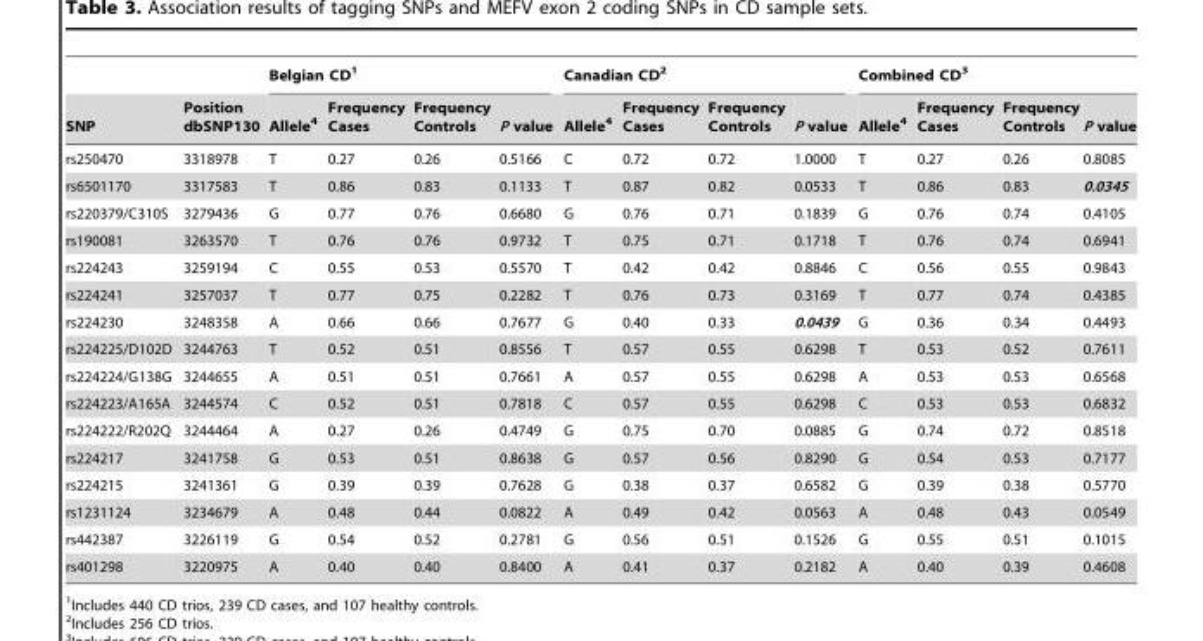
<table><thead><tr><td rowspan="2">SNP</td><td rowspan="2">Position dbSNP130</td><td colspan="4">Belgian CD<sup>1</sup></td><td colspan="4">Canadian CD<sup>2</sup></td><td colspan="4">Combined CD<sup>3</sup></td></tr><tr><td>Allele<sup>4</sup></td><td>Frequency Cases</td><td>Frequency Controls</td><td>P value</td><td>Allele<sup>4</sup></td><td>Frequency Cases</td><td>Frequency Controls</td><td>P value</td><td>Allele<sup>4</sup></td><td>Frequency Cases</td><td>Frequency Controls</td><td>P value</td></tr></thead><tbody><tr><td>rs250470</td><td>3318978</td><td>T</td><td>0.27</td><td>0.26</td><td>0.5166</td><td>C</td><td>0.72</td><td>0.72</td><td>1.0000</td><td>T</td><td>0.27</td><td>0.26</td><td>0.8085</td></tr><tr><td>rs6501170</td><td>3317583</td><td>T</td><td>0.86</td><td>0.83</td><td>0.1133</td><td>T</td><td>0.87</td><td>0.82</td><td>0.0533</td><td>T</td><td>0.86</td><td>0.83</td><td>0.0345</td></tr><tr><td>rs220379/C310S</td><td>3279436</td><td>G</td><td>0.77</td><td>0.76</td><td>0.6680</td><td>G</td><td>0.76</td><td>0.71</td><td>0.1839</td><td>G</td><td>0.76</td><td>0.74</td><td>0.4105</td></tr><tr><td>rs190081</td><td>3263570</td><td>T</td><td>0.76</td><td>0.76</td><td>0.9732</td><td>T</td><td>0.75</td><td>0.71</td><td>0.1718</td><td>T</td><td>0.76</td><td>0.74</td><td>0.6941</td></tr><tr><td>rs224243</td><td>3259194</td><td>C</td><td>0.55</td><td>0.53</td><td>0.5570</td><td>T</td><td>0.42</td><td>0.42</td><td>0.8846</td><td>C</td><td>0.56</td><td>0.55</td><td>0.9843</td></tr><tr><td>rs224241</td><td>3257037</td><td>T</td><td>0.77</td><td>0.75</td><td>0.2282</td><td>T</td><td>0.76</td><td>0.73</td><td>0.3169</td><td>T</td><td>0.77</td><td>0.74</td><td>0.4385</td></tr><tr><td>rs224230</td><td>3248358</td><td>A</td><td>0.66</td><td>0.66</td><td>0.7677</td><td>G</td><td>0.40</td><td>0.33</td><td>0.0439</td><td>G</td><td>0.36</td><td>0.34</td><td>0.4493</td></tr><tr><td>rs224225/D102D</td><td>3244763</td><td>T</td><td>0.52</td><td>0.51</td><td>0.8556</td><td>T</td><td>0.57</td><td>0.55</td><td>0.6298</td><td>T</td><td>0.53</td><td>0.52</td><td>0.7611</td></tr><tr><td>rs224224/G138G</td><td>3244655</td><td>A</td><td>0.51</td><td>0.51</td><td>0.7661</td><td>A</td><td>0.57</td><td>0.55</td><td>0.6298</td><td>A</td><td>0.53</td><td>0.53</td><td>0.6568</td></tr><tr><td>rs224223/A165A</td><td>3244574</td><td>C</td><td>0.52</td><td>0.51</td><td>0.7818</td><td>C</td><td>0.57</td><td>0.55</td><td>0.6298</td><td>C</td><td>0.53</td><td>0.53</td><td>0.6832</td></tr><tr><td>rs224222/R202Q</td><td>3244464</td><td>A</td><td>0.27</td><td>0.26</td><td>0.4749</td><td>G</td><td>0.75</td><td>0.70</td><td>0.0885</td><td>G</td><td>0.74</td><td>0.72</td><td>0.8518</td></tr><tr><td>rs224217</td><td>3241758</td><td>G</td><td>0.53</td><td>0.51</td><td>0.8638</td><td>G</td><td>0.57</td><td>0.56</td><td>0.8290</td><td>G</td><td>0.54</td><td>0.53</td><td>0.7177</td></tr><tr><td>rs224215</td><td>3241361</td><td>G</td><td>0.39</td><td>0.39</td><td>0.7628</td><td>G</td><td>0.38</td><td>0.37</td><td>0.6582</td><td>G</td><td>0.39</td><td>0.38</td><td>0.5770</td></tr><tr><td>rs1231124</td><td>3234679</td><td>A</td><td>0.48</td><td>0.44</td><td>0.0822</td><td>A</td><td>0.49</td><td>0.42</td><td>0.0563</td><td>A</td><td>0.48</td><td>0.43</td><td>0.0549</td></tr><tr><td>rs442387</td><td>3226119</td><td>G</td><td>0.54</td><td>0.52</td><td>0.2781</td><td>G</td><td>0.56</td><td>0.51</td><td>0.1526</td><td>G</td><td>0.55</td><td>0.51</td><td>0.1015</td></tr><tr><td>rs401298</td><td>3220975</td><td>A</td><td>0.40</td><td>0.40</td><td>0.8400</td><td>A</td><td>0.41</td><td>0.37</td><td>0.2182</td><td>A</td><td>0.40</td><td>0.39</td><td>0.4608</td></tr></tbody></table>